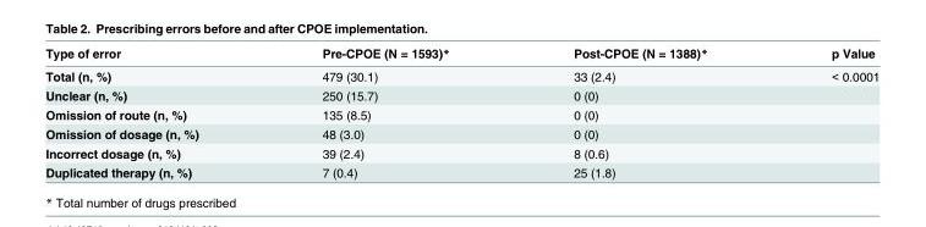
<table><thead><tr><td>Type of error</td><td>Pre-CPOE (N = 1593)*</td><td>Post-CPOE (N = 1388)*</td><td>p Value</td></tr></thead><tbody><tr><td>Total (n, %)</td><td>479 (30.1)</td><td>33 (2.4)</td><td>&lt; 0.0001</td></tr><tr><td>Unclear (n, %)</td><td>250 (15.7)</td><td>0 (0)</td><td></td></tr><tr><td>Omission of route (n, %)</td><td>135 (8.5)</td><td>0 (0)</td><td></td></tr><tr><td>Omission of dosage (n, %)</td><td>48 (3.0)</td><td>0 (0)</td><td></td></tr><tr><td>Incorrect dosage (n, %)</td><td>39 (2.4)</td><td>8 (0.6)</td><td></td></tr><tr><td>Duplicated therapy (n, %)</td><td>7 (0.4)</td><td>25 (1.8)</td><td></td></tr></tbody></table>